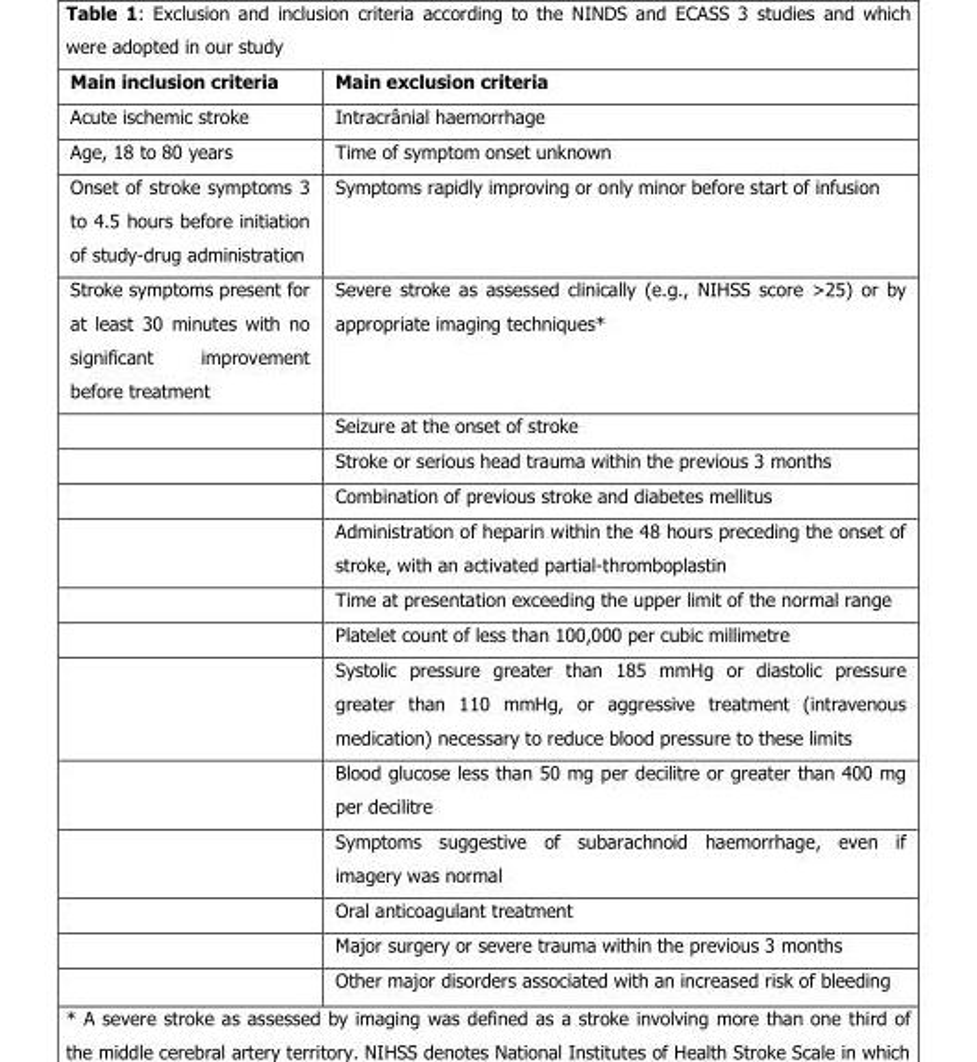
<table><thead><tr><td>Main inclusion criteria</td><td>Main exclusion criteria</td></tr></thead><tbody><tr><td>Acute ischemic stroke</td><td>Intracrânial haemorrhage</td></tr><tr><td>Age, 18 to 80 years</td><td>Time of symptom onset unknown</td></tr><tr><td>Onset of stroke symptoms 3 to 4.5 hours before initiation of study-drug administration</td><td>Symptoms rapidly improving or only minor before start of infusion</td></tr><tr><td rowspan="13">Stroke symptoms present for at least 30 minutes with no significant improvement before treatment</td><td>Severe stroke as assessed clinically (e.g., NIHSS score &gt;25) or by appropriate imaging techniques*</td></tr><tr><td>Seizure at the onset of stroke</td></tr><tr><td>Stroke or serious head trauma within the previous 3 months</td></tr><tr><td>Combination of previous stroke and diabetes mellitus</td></tr><tr><td>Administration of heparin within the 48 hours preceding the onset of stroke, with an activated partial-thromboplastin</td></tr><tr><td>Time at presentation exceeding the upper limit of the normal range</td></tr><tr><td>Platelet count of less than 100,000 per cubic millimetre</td></tr><tr><td>Systolic pressure greater than 185 mmHg or diastolic pressure greater than 110 mmHg, or aggressive treatment (intravenous medication) necessary to reduce blood pressure to these limits</td></tr><tr><td>Blood glucose less than 50 mg per decilitre or greater than 400 mg per decilitre</td></tr><tr><td>Symptoms suggestive of subarachnoid haemorrhage, even if imagery was normal</td></tr><tr><td>Oral anticoagulant treatment</td></tr><tr><td>Major surgery or severe trauma within the previous 3 months</td></tr><tr><td>Other major disorders associated with an increased risk of bleeding</td></tr></tbody></table>